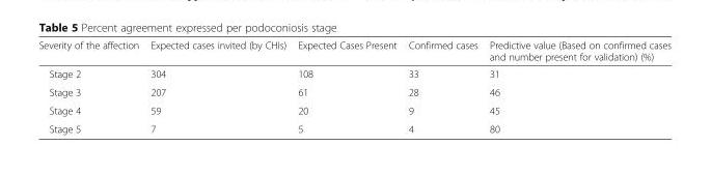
<table><thead><tr><td>Severity of the affection</td><td>Expected cases invited (by CHIs)</td><td>Expected Cases Present</td><td>Confirmed cases</td><td>Predictive value (Based on confirmed cases and number present for validation) (%)</td></tr></thead><tbody><tr><td>Stage 2</td><td>304</td><td>108</td><td>33</td><td>31</td></tr><tr><td>Stage 3</td><td>207</td><td>61</td><td>28</td><td>46</td></tr><tr><td>Stage 4</td><td>59</td><td>20</td><td>9</td><td>45</td></tr><tr><td>Stage 5</td><td>7</td><td>5</td><td>4</td><td>80</td></tr></tbody></table>